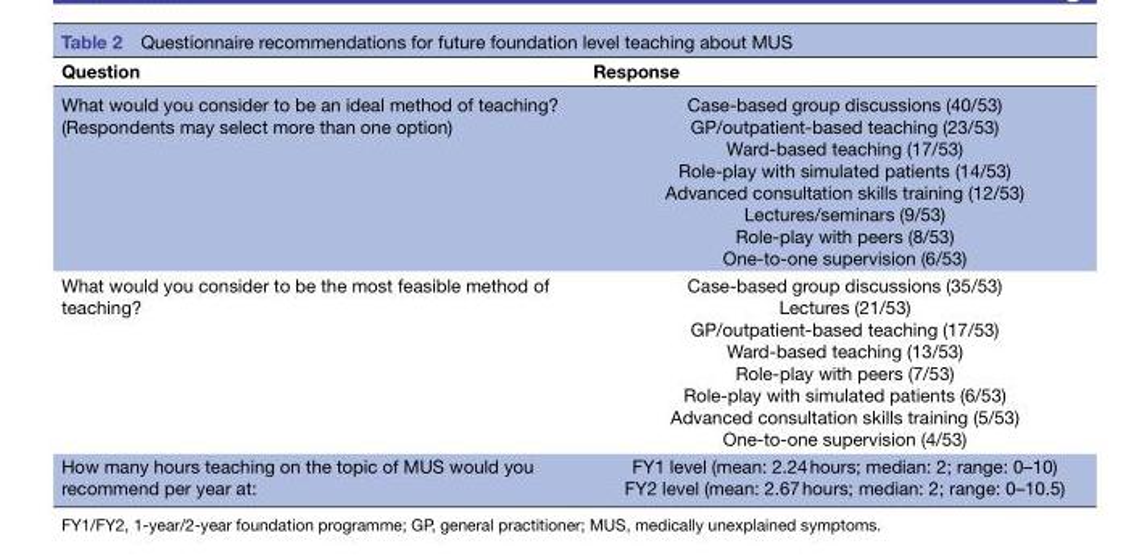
<table><thead><tr><td>Question</td><td>Response</td></tr></thead><tbody><tr><td>What would you consider to be an ideal method of teaching? (Respondents may select more than one option)</td><td>Case-based group discussions (40/53) GP/outpatient-based teaching (23/53) Ward-based teaching (17/53) Role-play with simulated patients (14/53) Advanced consultation skills training (12/53) Lectures/seminars (9/53) Role-play with peers (8/53) One-to-one supervision (6/53)</td></tr><tr><td>What would you consider to be the most feasible method of teaching?</td><td>Case-based group discussions (35/53) Lectures (21/53) GP/outpatient-based teaching (17/53) Ward-based teaching (13/53) Role-play with peers (7/53) Role-play with simulated patients (6/53) Advanced consultation skills training (5/53) One-to-one supervision (4/53)</td></tr><tr><td>How many hours teaching on the topic of MUS would you recommend per year at:</td><td>FY1 level (mean: 2.24 hours; median: 2; range: 0–10) FY2 level (mean: 2.67 hours; median: 2; range: 0–10.5)</td></tr></tbody></table>